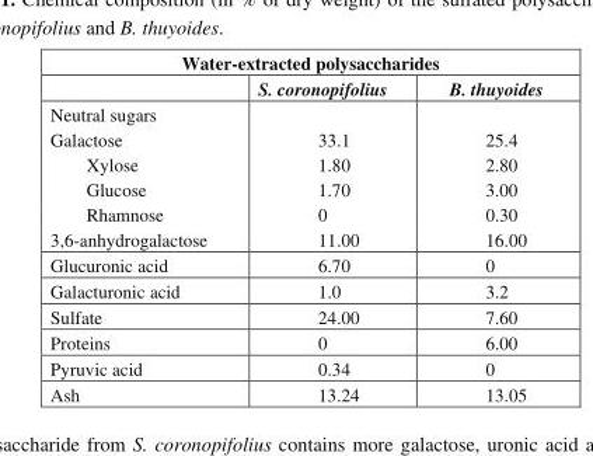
<table><thead><tr><td colspan="3">Water-extracted polysaccharides</td></tr><tr><td></td><td>S. coronopifolius</td><td>B. thuyoides</td></tr></thead><tbody><tr><td colspan="3">Neutral sugars</td></tr><tr><td>Galactose</td><td>33.1</td><td>25.4</td></tr><tr><td>Xylose</td><td>1.80</td><td>2.80</td></tr><tr><td>Glucose</td><td>1.70</td><td>3.00</td></tr><tr><td>Rhamnose</td><td>0</td><td>0.30</td></tr><tr><td>3,6-anhydrogalactose</td><td>11.00</td><td>16.00</td></tr><tr><td>Glucuronic acid</td><td>6.70</td><td>0</td></tr><tr><td>Galacturonic acid</td><td>1.0</td><td>3.2</td></tr><tr><td>Sulfate</td><td>24.00</td><td>7.60</td></tr><tr><td>Proteins</td><td>0</td><td>6.00</td></tr><tr><td>Pyruvic acid</td><td>0.34</td><td>0</td></tr><tr><td>Ash</td><td>13.24</td><td>13.05</td></tr></tbody></table>